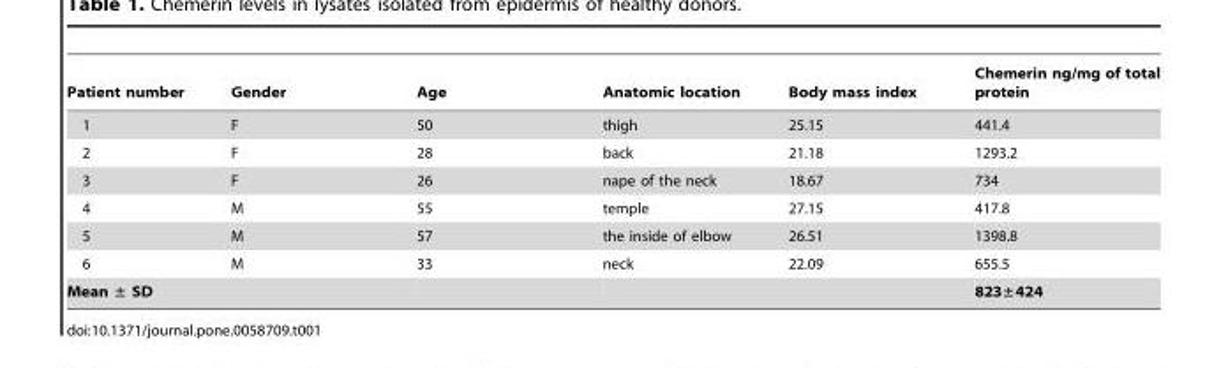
<table><thead><tr><td>Patient number</td><td>Gender</td><td>Age</td><td>Anatomic location</td><td>Body mass index</td><td>Chemerin ng/mg of total protein</td></tr></thead><tbody><tr><td>1</td><td>F</td><td>50</td><td>thigh</td><td>25.15</td><td>441.4</td></tr><tr><td>2</td><td>F</td><td>28</td><td>back</td><td>21.18</td><td>1293.2</td></tr><tr><td>3</td><td>F</td><td>26</td><td>nape of the neck</td><td>18.67</td><td>734</td></tr><tr><td>4</td><td>M</td><td>55</td><td>temple</td><td>27.15</td><td>417.8</td></tr><tr><td>5</td><td>M</td><td>57</td><td>the inside of elbow</td><td>26.51</td><td>1398.8</td></tr><tr><td>6</td><td>M</td><td>33</td><td>neck</td><td>22.09</td><td>655.5</td></tr><tr><td>Mean ± SD</td><td></td><td></td><td></td><td></td><td>823±424</td></tr></tbody></table>